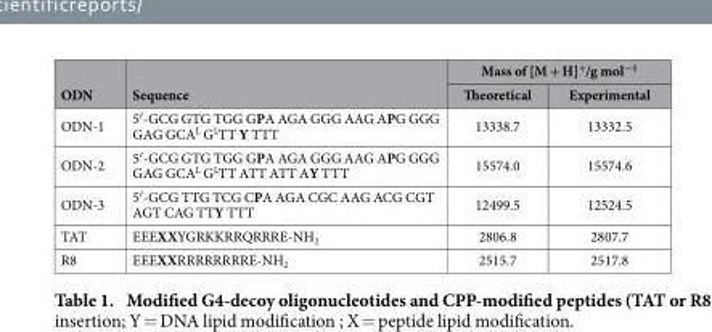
<table><thead><tr><td rowspan="2">ODN</td><td rowspan="2">Sequence</td><td colspan="2">Mass of [M + H]<sup>+</sup>/g mol<sup>−1</sup></td></tr><tr><td>Theoretical</td><td>Experimental</td></tr></thead><tbody><tr><td>ODN-1</td><td>5′ -GCG GTG TGG GPA AGA GGG AAG APG GGG GAG GCA<sup>L</sup> G<sup>L</sup>TT Y TTT</td><td>13338.7</td><td>13332.5</td></tr><tr><td>ODN-2</td><td>5′ -GCG GTG TGG GPA AGA GGG AAG APG GGG GAG GCA<sup>L</sup> G<sup>L</sup>TT ATT ATT AY TTT</td><td>15574.0</td><td>15574.6</td></tr><tr><td>ODN-3</td><td>5′ -GCG TTG TCG CPA AGA CGC AAG ACG CGT AGT CAG TTY TTT</td><td>12499.5</td><td>12524.5</td></tr><tr><td>TAT</td><td>EEEXXYGRKKRRQRRRE-NH<sub>2</sub></td><td>2806.8</td><td>2807.7</td></tr><tr><td>R8</td><td>EEEXXRRRRRRRRE-NH<sub>2</sub></td><td>2515.7</td><td>2517.8</td></tr></tbody></table>